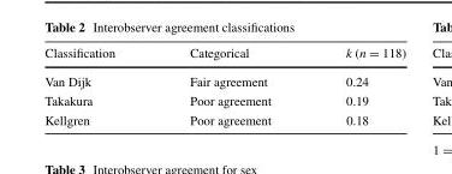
<table><thead><tr><td>Classification</td><td>Categorical</td><td>k (n = 118)</td></tr></thead><tbody><tr><td>Van Dijk</td><td>Fair agreement</td><td>0.24</td></tr><tr><td>Takakura</td><td>Poor agreement</td><td>0.19</td></tr><tr><td>Kellgren</td><td>Poor agreement</td><td>0.18</td></tr></tbody></table>